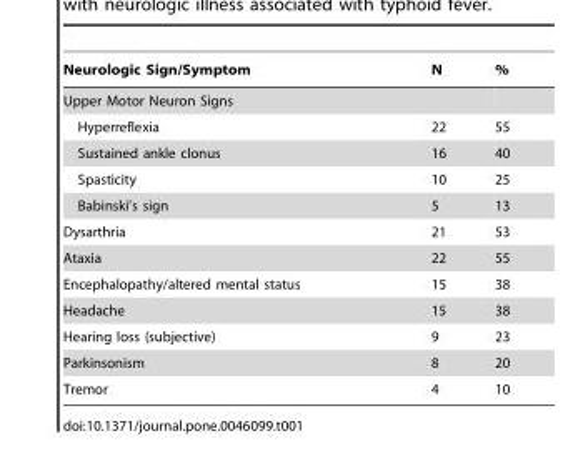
<table><thead><tr><td>Neurologic Sign/Symptom</td><td>N</td><td>%</td></tr></thead><tbody><tr><td colspan="3">Upper Motor Neuron Signs</td></tr><tr><td>Hyperreflexia</td><td>22</td><td>55</td></tr><tr><td>Sustained ankle clonus</td><td>16</td><td>40</td></tr><tr><td>Spasticity</td><td>10</td><td>25</td></tr><tr><td>Babinski’s sign</td><td>5</td><td>13</td></tr><tr><td>Dysarthria</td><td>21</td><td>53</td></tr><tr><td>Ataxia</td><td>22</td><td>55</td></tr><tr><td>Encephalopathy/altered mental status</td><td>15</td><td>38</td></tr><tr><td>Headache</td><td>15</td><td>38</td></tr><tr><td>Hearing loss (subjective)</td><td>9</td><td>23</td></tr><tr><td>Parkinsonism</td><td>8</td><td>20</td></tr><tr><td>Tremor</td><td>4</td><td>10</td></tr></tbody></table>